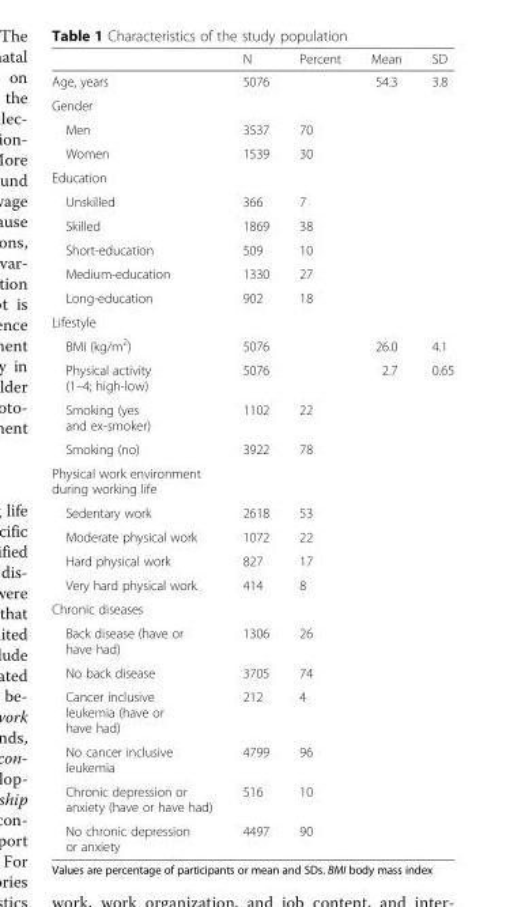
<table><thead><tr><td></td><td>N</td><td>Percent</td><td>Mean</td><td>SD</td></tr></thead><tbody><tr><td>Age, years</td><td>5076</td><td></td><td>54.3</td><td>3.8</td></tr><tr><td colspan="5">Gender</td></tr><tr><td>Men</td><td>3537</td><td>70</td><td></td><td></td></tr><tr><td>Women</td><td>1539</td><td>30</td><td></td><td></td></tr><tr><td colspan="5">Education</td></tr><tr><td>Unskilled</td><td>366</td><td>7</td><td></td><td></td></tr><tr><td>Skilled</td><td>1869</td><td>38</td><td></td><td></td></tr><tr><td>Short-education</td><td>509</td><td>10</td><td></td><td></td></tr><tr><td>Medium-education</td><td>1330</td><td>27</td><td></td><td></td></tr><tr><td>Long-education</td><td>902</td><td>18</td><td></td><td></td></tr><tr><td colspan="5">Lifestyle</td></tr><tr><td>BMI (kg/m<sup>2</sup>)</td><td>5076</td><td></td><td>26.0</td><td>4.1</td></tr><tr><td>Physical activity (1–4; high-low)</td><td>5076</td><td></td><td>2.7</td><td>0.65</td></tr><tr><td>Smoking (yes and ex-smoker)</td><td>1102</td><td>22</td><td></td><td></td></tr><tr><td>Smoking (no)</td><td>3922</td><td>78</td><td></td><td></td></tr><tr><td colspan="5">Physical work environment during working life</td></tr><tr><td>Sedentary work</td><td>2618</td><td>53</td><td></td><td></td></tr><tr><td>Moderate physical work</td><td>1072</td><td>22</td><td></td><td></td></tr><tr><td>Hard physical work</td><td>827</td><td>17</td><td></td><td></td></tr><tr><td>Very hard physical work</td><td>414</td><td>8</td><td></td><td></td></tr><tr><td colspan="5">Chronic diseases</td></tr><tr><td>Back disease (have or have had)</td><td>1306</td><td>26</td><td></td><td></td></tr><tr><td>No back disease</td><td>3705</td><td>74</td><td></td><td></td></tr><tr><td>Cancer inclusive leukemia (have or have had)</td><td>212</td><td>4</td><td></td><td></td></tr><tr><td>No cancer inclusive leukemia</td><td>4799</td><td>96</td><td></td><td></td></tr><tr><td>Chronic depression or anxiety (have or have had)</td><td>516</td><td>10</td><td></td><td></td></tr><tr><td>No chronic depression or anxiety</td><td>4497</td><td>90</td><td></td><td></td></tr></tbody></table>